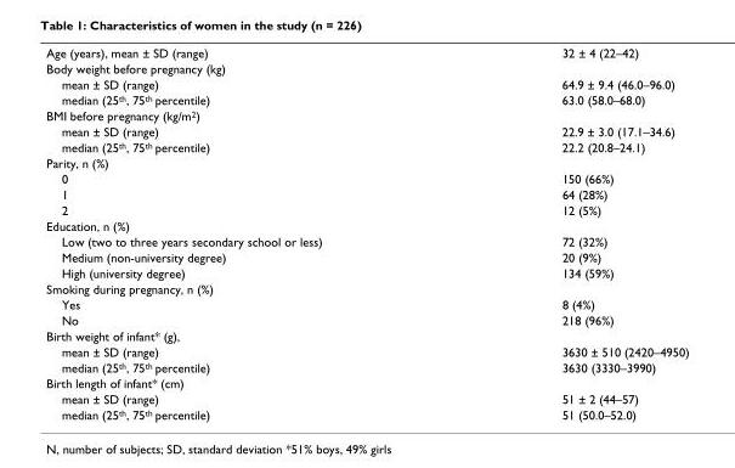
<table><tbody><tr><td>Age (years), mean ± SD (range)</td><td>32 ± 4 (22–42)</td></tr><tr><td colspan="2">Body weight before pregnancy (kg)</td></tr><tr><td>mean ± SD (range)</td><td>64.9 ± 9.4 (46.0–96.0)</td></tr><tr><td>median (25<sup>th</sup>, 75<sup>th</sup> percentile)</td><td>63.0 (58.0–68.0)</td></tr><tr><td colspan="2">BMI before pregnancy (kg/m<sup>2</sup>)</td></tr><tr><td>mean ± SD (range)</td><td>22.9 ± 3.0 (17.1–34.6)</td></tr><tr><td>median (25<sup>th</sup>, 75<sup>th</sup> percentile)</td><td>22.2 (20.8–24.1)</td></tr><tr><td colspan="2">Parity, n (%)</td></tr><tr><td>0</td><td>150 (66%)</td></tr><tr><td>1</td><td>64 (28%)</td></tr><tr><td>2</td><td>12 (5%)</td></tr><tr><td colspan="2">Education, n (%)</td></tr><tr><td>Low (two to three years secondary school or less)</td><td>72 (32%)</td></tr><tr><td>Medium (non-university degree)</td><td>20 (9%)</td></tr><tr><td>High (university degree)</td><td>134 (59%)</td></tr><tr><td colspan="2">Smoking during pregnancy, n (%)</td></tr><tr><td>Yes</td><td>8 (4%)</td></tr><tr><td>No</td><td>218 (96%)</td></tr><tr><td colspan="2">Birth weight of infant* (g),</td></tr><tr><td>mean ± SD (range)</td><td>3630 ± 510 (2420–4950)</td></tr><tr><td>median (25<sup>th</sup>, 75<sup>th</sup> percentile)</td><td>3630 (3330–3990)</td></tr><tr><td colspan="2">Birth length of infant* (cm)</td></tr><tr><td>mean ± SD (range)</td><td>51 ± 2 (44–57)</td></tr><tr><td>median (25<sup>th</sup>, 75<sup>th</sup> percentile)</td><td>51 (50.0–52.0)</td></tr></tbody></table>